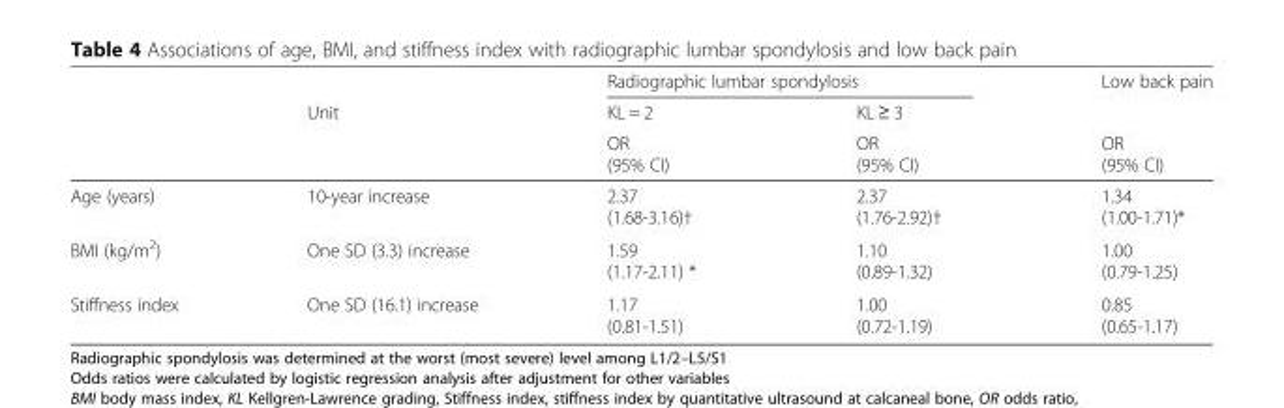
<table><thead><tr><td rowspan="3"></td><td rowspan="3">Unit</td><td colspan="2">Radiographic lumbar spondylosis</td><td rowspan="3">Low back pain OR (95% CI)</td></tr><tr><td rowspan="2">KL = 2 OR (95% CI)</td><td rowspan="2">KL ≥ 3 OR (95% CI)</td></tr><tr></tr></thead><tbody><tr><td>Age (years)</td><td>10-year increase</td><td>2.37 (1.68-3.16)†</td><td>2.37 (1.76-2.92)†</td><td>1.34 (1.00-1.71)*</td></tr><tr><td>BMI (kg/m<sup>2</sup>)</td><td>One SD (3.3) increase</td><td>1.59 (1.17-2.11) *</td><td>1.10 (0.89-1.32)</td><td>1.00 (0.79-1.25)</td></tr><tr><td>Stiffness index</td><td>One SD (16.1) increase</td><td>1.17 (0.81-1.51)</td><td>1.00 (0.72-1.19)</td><td>0.85 (0.65-1.17)</td></tr></tbody></table>